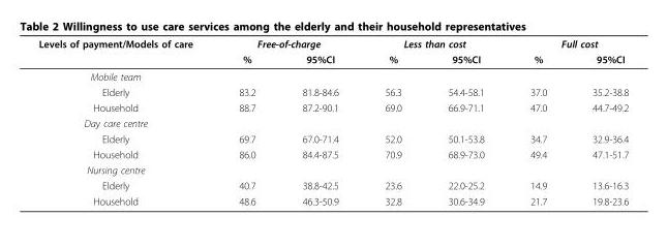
<table><thead><tr><td rowspan="2">Levels of payment/Models of care</td><td colspan="2">Free-of-charge</td><td colspan="2">Less than cost</td><td colspan="2">Full cost</td></tr><tr><td>%</td><td>95%CI</td><td>%</td><td>95%CI</td><td>%</td><td>95%CI</td></tr></thead><tbody><tr><td colspan="7">Mobile team</td></tr><tr><td>Elderly</td><td>83.2</td><td>81.8-84.6</td><td>56.3</td><td>54.4-58.1</td><td>37.0</td><td>35.2-38.8</td></tr><tr><td>Household</td><td>88.7</td><td>87.2-90.1</td><td>69.0</td><td>66.9-71.1</td><td>47.0</td><td>44.7-49.2</td></tr><tr><td colspan="7">Day care centre</td></tr><tr><td>Elderly</td><td>69.7</td><td>67.0-71.4</td><td>52.0</td><td>50.1-53.8</td><td>34.7</td><td>32.9-36.4</td></tr><tr><td>Household</td><td>86.0</td><td>84.4-87.5</td><td>70.9</td><td>68.9-73.0</td><td>49.4</td><td>47.1-51.7</td></tr><tr><td colspan="7">Nursing centre</td></tr><tr><td>Elderly</td><td>40.7</td><td>38.8-42.5</td><td>23.6</td><td>22.0-25.2</td><td>14.9</td><td>13.6-16.3</td></tr><tr><td>Household</td><td>48.6</td><td>46.3-50.9</td><td>32.8</td><td>30.6-34.9</td><td>21.7</td><td>19.8-23.6</td></tr></tbody></table>